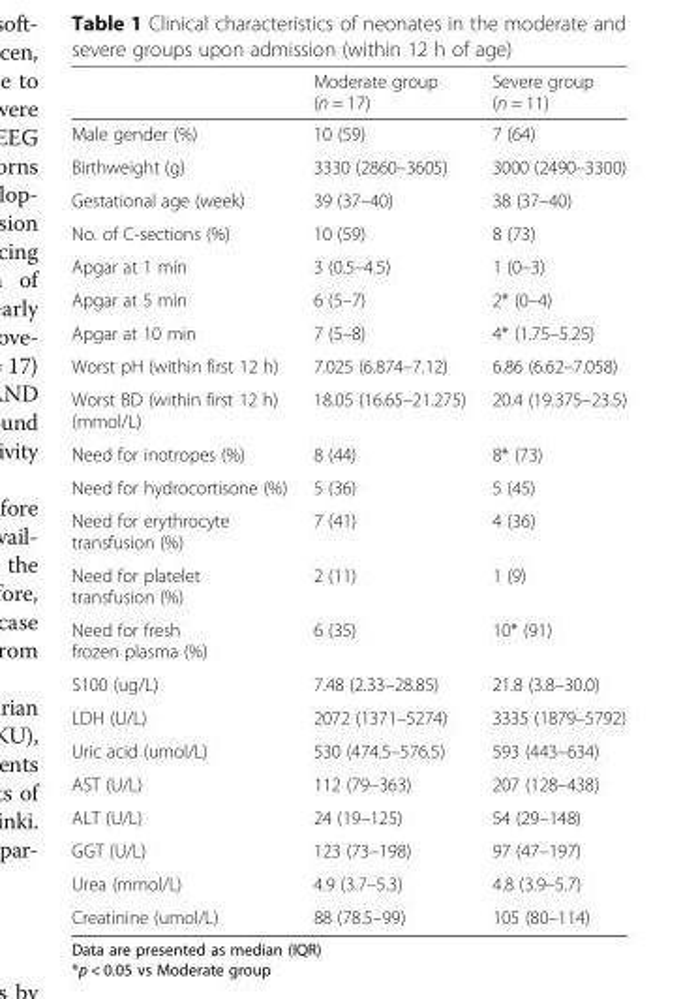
<table><thead><tr><td></td><td>Moderate group (n = 17)</td><td>Severe group (n = 11)</td></tr></thead><tbody><tr><td>Male gender (%)</td><td>10 (59)</td><td>7 (64)</td></tr><tr><td>Birthweight (g)</td><td>3330 (2860–3605)</td><td>3000 (2490–3300)</td></tr><tr><td>Gestational age (week)</td><td>39 (37–40)</td><td>38 (37–40)</td></tr><tr><td>No. of C-sections (%)</td><td>10 (59)</td><td>8 (73)</td></tr><tr><td>Apgar at 1 min</td><td>3 (0.5–4.5)</td><td>1 (0–3)</td></tr><tr><td>Apgar at 5 min</td><td>6 (5–7)</td><td>2* (0–4)</td></tr><tr><td>Apgar at 10 min</td><td>7 (5–8)</td><td>4* (1.75–5.25)</td></tr><tr><td>Worst pH (within first 12 h)</td><td>7.025 (6.874–7.12)</td><td>6.86 (6.62–7.058)</td></tr><tr><td>Worst BD (within first 12 h) (mmol/L)</td><td>18.05 (16.65–21.275)</td><td>20.4 (19.375–23.5)</td></tr><tr><td>Need for inotropes (%)</td><td>8 (44)</td><td>8* (73)</td></tr><tr><td>Need for hydrocortisone (%)</td><td>5 (36)</td><td>5 (45)</td></tr><tr><td>Need for erythrocyte transfusion (%)</td><td>7 (41)</td><td>4 (36)</td></tr><tr><td>Need for platelet transfusion (%)</td><td>2 (11)</td><td>1 (9)</td></tr><tr><td>Need for fresh frozen plasma (%)</td><td>6 (35)</td><td>10* (91)</td></tr><tr><td>S100 (ug/L)</td><td>7.48 (2.33–28.85)</td><td>21.8 (3.8–30.0)</td></tr><tr><td>LDH (U/L)</td><td>2072 (1371–5274)</td><td>3335 (1879–5792)</td></tr><tr><td>Uric acid (umol/L)</td><td>530 (474.5–576.5)</td><td>593 (443–634)</td></tr><tr><td>AST (U/L)</td><td>112 (79–363)</td><td>207 (128–438)</td></tr><tr><td>ALT (U/L)</td><td>24 (19–125)</td><td>54 (29–148)</td></tr><tr><td>GGT (U/L)</td><td>123 (73–198)</td><td>97 (47–197)</td></tr><tr><td>Urea (mmol/L)</td><td>4.9 (3.7–5.3)</td><td>4.8 (3.9–5.7)</td></tr><tr><td>Creatinine (umol/L)</td><td>88 (78.5–99)</td><td>105 (80–114)</td></tr></tbody></table>